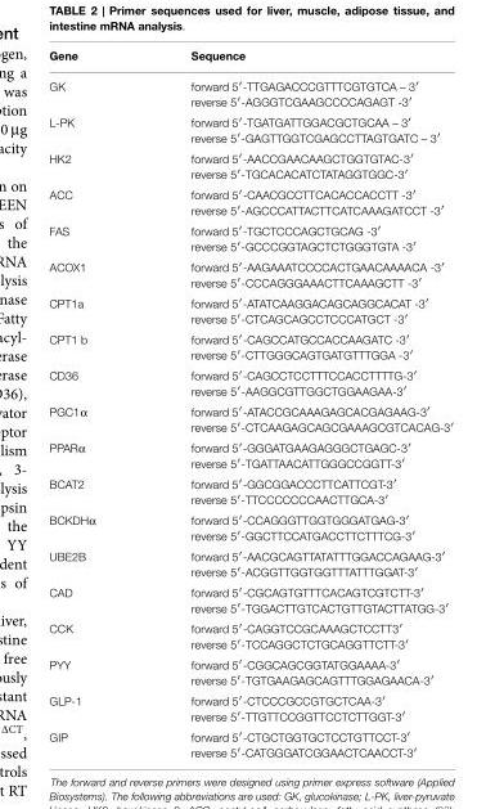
<table><thead><tr><td>Gene</td><td>Sequence</td></tr></thead><tbody><tr><td rowspan="2">GK</td><td>forward 5′-TTGAGACCCGTTTCGTGTCA – 3′</td></tr><tr><td>reverse 5′-AGGGTCGAAGCCCCAGAGT -3′</td></tr><tr><td rowspan="2">L-PK</td><td>forward 5′-TGATGATTGGACGCTGCAA – 3′</td></tr><tr><td>reverse 5′-GAGTTGGTCGAGCCTTAGTGATC – 3′</td></tr><tr><td rowspan="2">HK2</td><td>forward 5′-AACCGAACAAGCTGGTGTAC-3′</td></tr><tr><td>reverse 5′-TGCACACATCTATAGGTGGC-3′</td></tr><tr><td rowspan="2">ACC</td><td>forward 5′-CAACGCCTTCACACCACCTT -3′</td></tr><tr><td>reverse 5′-AGCCCATTACTTCATCAAAGATCCT -3′</td></tr><tr><td rowspan="2">FAS</td><td>forward 5′-TGCTCCCAGCTGCAG -3′</td></tr><tr><td>reverse 5′-GCCCGGTAGCTCTGGGTGTA -3′</td></tr><tr><td rowspan="2">ACOX1</td><td>forward 5′-AAGAAATCCCCACTGAACAAAACA -3′</td></tr><tr><td>reverse 5′-CCCAGGGAAACTTCAAAGCTT -3′</td></tr><tr><td rowspan="2">CPT1a</td><td>forward 5′-ATATCAAGGACAGCAGGCACAT -3′</td></tr><tr><td>reverse 5′-CTCAGCAGCCTCCCATGCT -3′</td></tr><tr><td rowspan="2">CPT1 b</td><td>forward 5′-CAGCCATGCCACCAAGATC -3′</td></tr><tr><td>reverse 5′-CTTGGGCAGTGATGTTTGGA -3′</td></tr><tr><td rowspan="2">CD36</td><td>forward 5′-CAGCCTCCTTTCCACCTTTTG-3′</td></tr><tr><td>reverse 5′-AAGGCGTTGGCTGGAAGAA-3′</td></tr><tr><td rowspan="2">PGC1α</td><td>forward 5′-ATACCGCAAAGAGCACGAGAAG-3′</td></tr><tr><td>reverse 5′-CTCAAGAGCAGCGAAAGCGTCACAG-3′</td></tr><tr><td rowspan="2">PPARα</td><td>forward 5′-GGGATGAAGAGGGCTGAGC-3′</td></tr><tr><td>reverse 5′-TGATTAACATTGGGCCGGTT-3′</td></tr><tr><td rowspan="2">BCAT2</td><td>forward 5′-GGCGGACCCTTCATTCGT-3′</td></tr><tr><td>reverse 5′-TTCCCCCCCAACTTGCA-3′</td></tr><tr><td rowspan="2">BCKDHα</td><td>forward 5′-CCAGGGTTGGTGGGATGAG-3′</td></tr><tr><td>reverse 5′-GGCTTCCATGACCTTCTTTCG-3′</td></tr><tr><td rowspan="2">UBE2B</td><td>forward 5′-AACGCAGTTATATTTGGACCAGAAG-3′</td></tr><tr><td>reverse 5′-ACGGTTGGTGGTTTATTTGGAT-3′</td></tr><tr><td rowspan="2">CAD</td><td>forward 5′-CGCAGTGTTTCACAGTCGTCTT-3′</td></tr><tr><td>reverse 5′-TGGACTTGTCACTGTTGTACTTATGG-3′</td></tr><tr><td rowspan="2">CCK</td><td>forward 5′-CAGGTCCGCAAAGCTCCTT3′</td></tr><tr><td>reverse 5′-TCCAGGCTCTGCAGGTTCTT-3′</td></tr><tr><td rowspan="2">PYY</td><td>forward 5′-CGGCAGCGGTATGGAAAA-3′</td></tr><tr><td>reverse 5′-TGTGAAGAGCAGTTTGGAGAACA-3′</td></tr><tr><td rowspan="2">GLP-1</td><td>forward 5′-CTCCCGCCGTGCTCAA-3′</td></tr><tr><td>reverse 5′-TTGTTCCGGTTCCTCTTGGT-3′</td></tr><tr><td rowspan="2">GIP</td><td>forward 5′-CTGCTGGTGCTCCTGTTCCT-3′</td></tr><tr><td>reverse 5′-CATGGGATCGGAACTCAACCT-3′</td></tr></tbody></table>